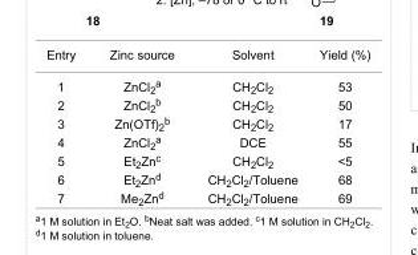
<table><tbody><tr><td>Entry</td><td>Zinc source</td><td>Solvent</td><td>Yield (%)</td></tr><tr><td>1</td><td>ZnCl<sub>2</sub><sup>a</sup></td><td>CH<sub>2</sub>Cl<sub>2</sub></td><td>53</td></tr><tr><td>2</td><td>ZnCl<sub>2</sub><sup>b</sup></td><td>CH<sub>2</sub>Cl<sub>2</sub></td><td>50</td></tr><tr><td>3</td><td>Zn(OTf)<sub>2</sub><sup>b</sup></td><td>CH<sub>2</sub>Cl<sub>2</sub></td><td>17</td></tr><tr><td>4</td><td>ZnCl<sub>2</sub><sup>a</sup></td><td>DCE</td><td>55</td></tr><tr><td>5</td><td>Et<sub>2</sub>Zn<sup>c</sup></td><td>CH<sub>2</sub>Cl<sub>2</sub></td><td>&lt;5</td></tr><tr><td>6</td><td>Et<sub>2</sub>Zn<sup>d</sup></td><td>CH<sub>2</sub>Cl<sub>2</sub>/Toluene</td><td>68</td></tr><tr><td>7</td><td>Me<sub>2</sub>Zn<sup>d</sup></td><td>CH<sub>2</sub>Cl<sub>2</sub>/Toluene</td><td>69</td></tr></tbody></table>